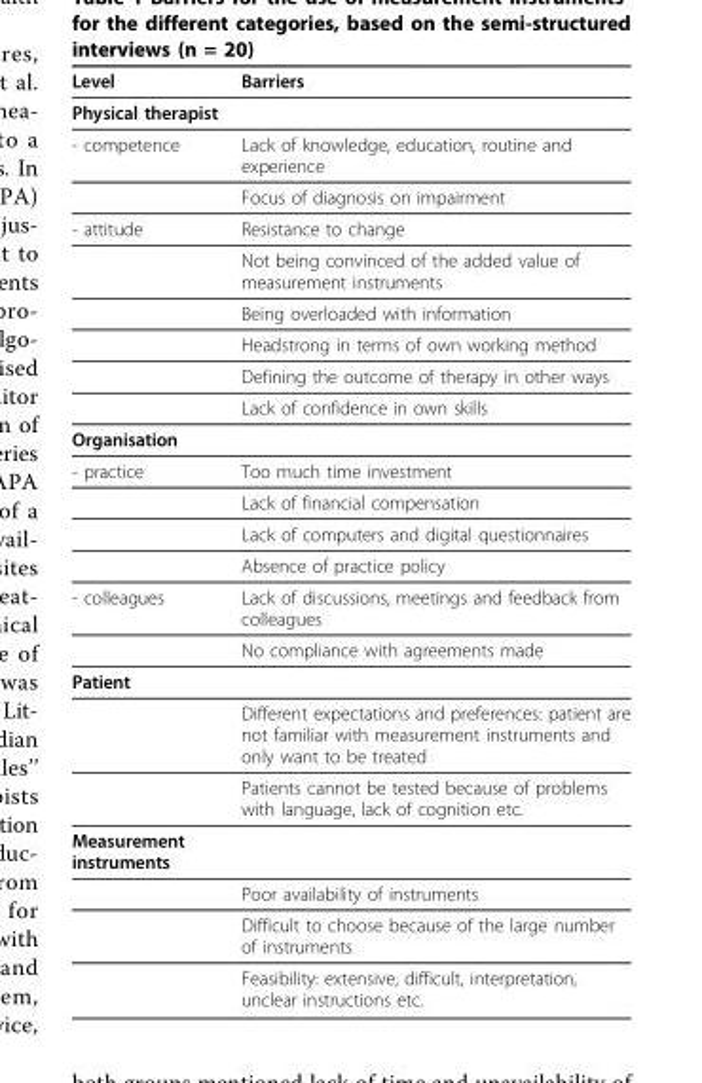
<table><thead><tr><td>Level</td><td>Barriers</td></tr></thead><tbody><tr><td colspan="2">Physical therapist</td></tr><tr><td rowspan="2">- competence</td><td>Lack of knowledge, education, routine and experience</td></tr><tr><td>Focus of diagnosis on impairment</td></tr><tr><td rowspan="6">- attitude</td><td>Resistance to change</td></tr><tr><td>Not being convinced of the added value of measurement instruments</td></tr><tr><td>Being overloaded with information</td></tr><tr><td>Headstrong in terms of own working method</td></tr><tr><td>Defining the outcome of therapy in other ways</td></tr><tr><td>Lack of confidence in own skills</td></tr><tr><td colspan="2">Organisation</td></tr><tr><td rowspan="4">- practice</td><td>Too much time investment</td></tr><tr><td>Lack of financial compensation</td></tr><tr><td>Lack of computers and digital questionnaires</td></tr><tr><td>Absence of practice policy</td></tr><tr><td rowspan="2">- colleagues</td><td>Lack of discussions, meetings and feedback from colleagues</td></tr><tr><td>No compliance with agreements made</td></tr><tr><td colspan="2">Patient</td></tr><tr><td></td><td>Different expectations and preferences: patient are not familiar with measurement instruments and only want to be treated</td></tr><tr><td></td><td>Patients cannot be tested because of problems with language, lack of cognition etc.</td></tr><tr><td colspan="2">Measurement instruments</td></tr><tr><td></td><td>Poor availability of instruments</td></tr><tr><td></td><td>Difficult to choose because of the large number of instruments</td></tr><tr><td></td><td>Feasibility: extensive, difficult, interpretation, unclear instructions etc.</td></tr></tbody></table>